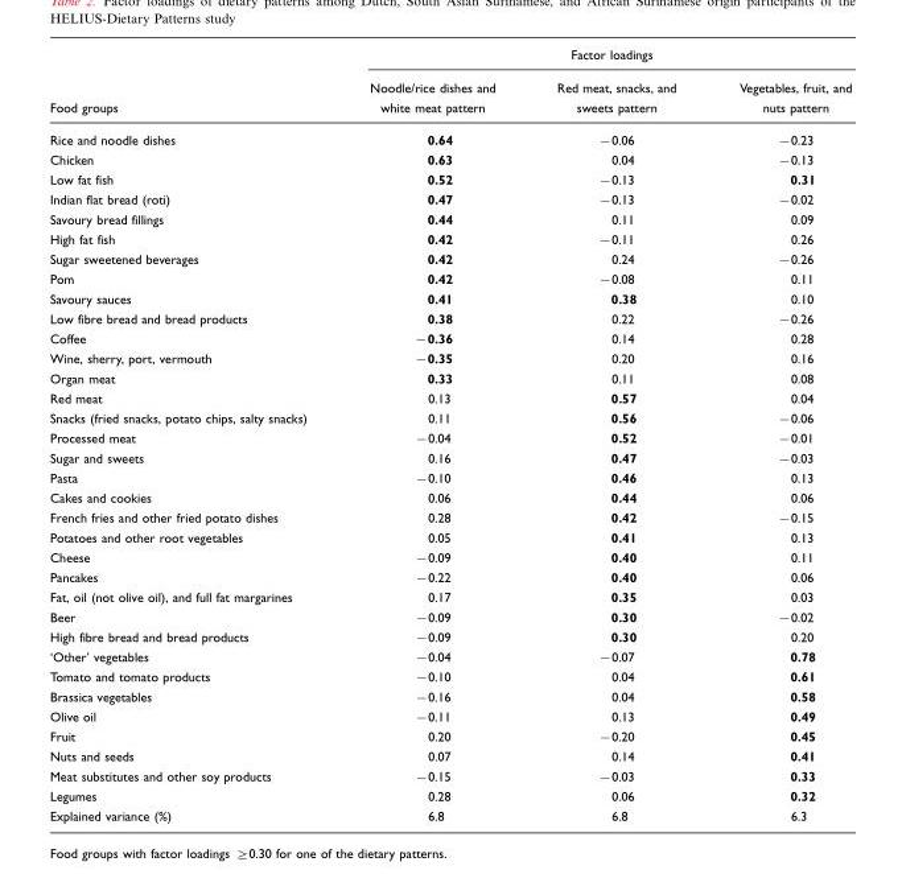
<table><thead><tr><td rowspan="2">Food groups</td><td colspan="3">Factor loadings</td></tr><tr><td>Noodle/rice dishes and white meat pattern</td><td>Red meat, snacks, and sweets pattern</td><td>Vegetables, fruit, and nuts pattern</td></tr></thead><tbody><tr><td>Rice and noodle dishes</td><td>0.64</td><td>−0.06</td><td>−0.23</td></tr><tr><td>Chicken</td><td>0.63</td><td>0.04</td><td>−0.13</td></tr><tr><td>Low fat fish</td><td>0.52</td><td>−0.13</td><td>0.31</td></tr><tr><td>Indian flat bread (roti)</td><td>0.47</td><td>−0.13</td><td>−0.02</td></tr><tr><td>Savoury bread fillings</td><td>0.44</td><td>0.11</td><td>0.09</td></tr><tr><td>High fat fish</td><td>0.42</td><td>−0.11</td><td>0.26</td></tr><tr><td>Sugar sweetened beverages</td><td>0.42</td><td>0.24</td><td>−0.26</td></tr><tr><td>Pom</td><td>0.42</td><td>−0.08</td><td>0.11</td></tr><tr><td>Savoury sauces</td><td>0.41</td><td>0.38</td><td>0.10</td></tr><tr><td>Low fibre bread and bread products</td><td>0.38</td><td>0.22</td><td>−0.26</td></tr><tr><td>Coffee</td><td>−0.36</td><td>0.14</td><td>0.28</td></tr><tr><td>Wine, sherry, port, vermouth</td><td>−0.35</td><td>0.20</td><td>0.16</td></tr><tr><td>Organ meat</td><td>0.33</td><td>0.11</td><td>0.08</td></tr><tr><td>Red meat</td><td>0.13</td><td>0.57</td><td>0.04</td></tr><tr><td>Snacks (fried snacks, potato chips, salty snacks)</td><td>0.11</td><td>0.56</td><td>−0.06</td></tr><tr><td>Processed meat</td><td>−0.04</td><td>0.52</td><td>−0.01</td></tr><tr><td>Sugar and sweets</td><td>0.16</td><td>0.47</td><td>−0.03</td></tr><tr><td>Pasta</td><td>−0.10</td><td>0.46</td><td>0.13</td></tr><tr><td>Cakes and cookies</td><td>0.06</td><td>0.44</td><td>0.06</td></tr><tr><td>French fries and other fried potato dishes</td><td>0.28</td><td>0.42</td><td>−0.15</td></tr><tr><td>Potatoes and other root vegetables</td><td>0.05</td><td>0.41</td><td>0.13</td></tr><tr><td>Cheese</td><td>−0.09</td><td>0.40</td><td>0.11</td></tr><tr><td>Pancakes</td><td>−0.22</td><td>0.40</td><td>0.06</td></tr><tr><td>Fat, oil (not olive oil), and full fat margarines</td><td>0.17</td><td>0.35</td><td>0.03</td></tr><tr><td>Beer</td><td>−0.09</td><td>0.30</td><td>−0.02</td></tr><tr><td>High fibre bread and bread products</td><td>−0.09</td><td>0.30</td><td>0.20</td></tr><tr><td>‘Other’ vegetables</td><td>−0.04</td><td>−0.07</td><td>0.78</td></tr><tr><td>Tomato and tomato products</td><td>−0.10</td><td>0.04</td><td>0.61</td></tr><tr><td>Brassica vegetables</td><td>−0.16</td><td>0.04</td><td>0.58</td></tr><tr><td>Olive oil</td><td>−0.11</td><td>0.13</td><td>0.49</td></tr><tr><td>Fruit</td><td>0.20</td><td>−0.20</td><td>0.45</td></tr><tr><td>Nuts and seeds</td><td>0.07</td><td>0.14</td><td>0.41</td></tr><tr><td>Meat substitutes and other soy products</td><td>−0.15</td><td>−0.03</td><td>0.33</td></tr><tr><td>Legumes</td><td>0.28</td><td>0.06</td><td>0.32</td></tr><tr><td>Explained variance (%)</td><td>6.8</td><td>6.8</td><td>6.3</td></tr></tbody></table>